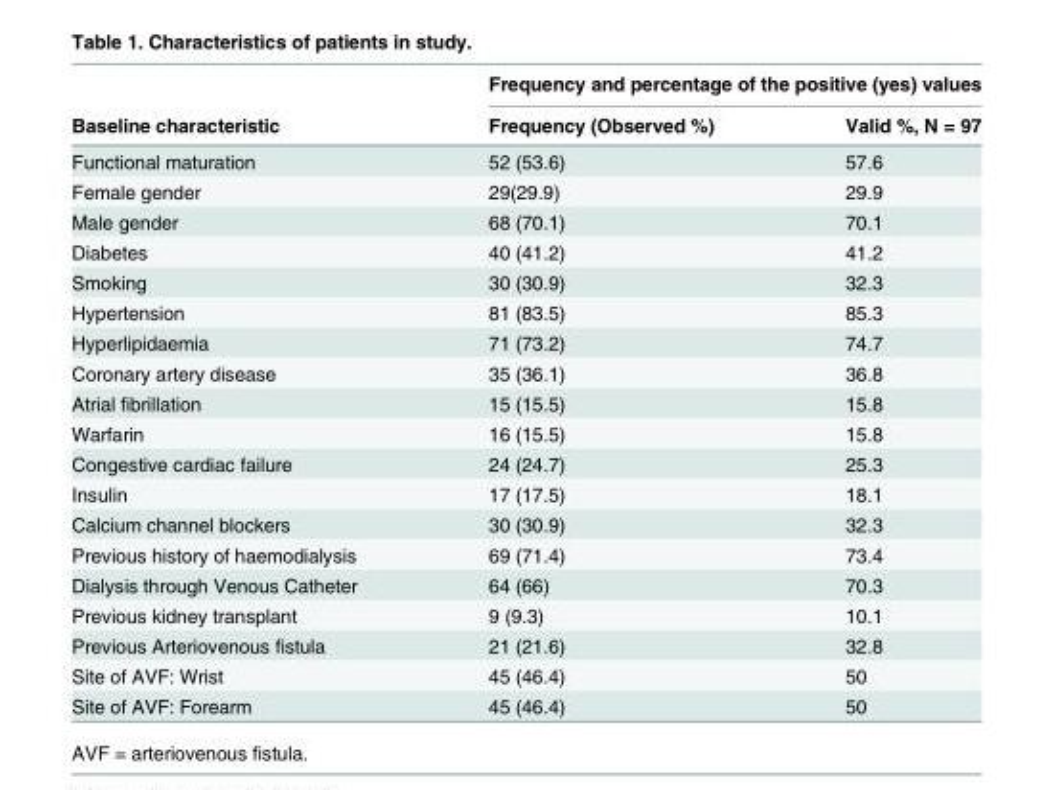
<table><thead><tr><td rowspan="2">Baseline characteristic</td><td colspan="2">Frequency and percentage of the positive (yes) values</td></tr><tr><td>Frequency (Observed %)</td><td>Valid %, N = 97</td></tr></thead><tbody><tr><td>Functional maturation</td><td>52 (53.6)</td><td>57.6</td></tr><tr><td>Female gender</td><td>29(29.9)</td><td>29.9</td></tr><tr><td>Male gender</td><td>68 (70.1)</td><td>70.1</td></tr><tr><td>Diabetes</td><td>40 (41.2)</td><td>41.2</td></tr><tr><td>Smoking</td><td>30 (30.9)</td><td>32.3</td></tr><tr><td>Hypertension</td><td>81 (83.5)</td><td>85.3</td></tr><tr><td>Hyperlipidaemia</td><td>71 (73.2)</td><td>74.7</td></tr><tr><td>Coronary artery disease</td><td>35 (36.1)</td><td>36.8</td></tr><tr><td>Atrial fibrillation</td><td>15 (15.5)</td><td>15.8</td></tr><tr><td>Warfarin</td><td>16 (15.5)</td><td>15.8</td></tr><tr><td>Congestive cardiac failure</td><td>24 (24.7)</td><td>25.3</td></tr><tr><td>Insulin</td><td>17 (17.5)</td><td>18.1</td></tr><tr><td>Calcium channel blockers</td><td>30 (30.9)</td><td>32.3</td></tr><tr><td>Previous history of haemodialysis</td><td>69 (71.4)</td><td>73.4</td></tr><tr><td>Dialysis through Venous Catheter</td><td>64 (66)</td><td>70.3</td></tr><tr><td>Previous kidney transplant</td><td>9 (9.3)</td><td>10.1</td></tr><tr><td>Previous Arteriovenous fistula</td><td>21 (21.6)</td><td>32.8</td></tr><tr><td>Site of AVF: Wrist</td><td>45 (46.4)</td><td>50</td></tr><tr><td>Site of AVF: Forearm</td><td>45 (46.4)</td><td>50</td></tr></tbody></table>